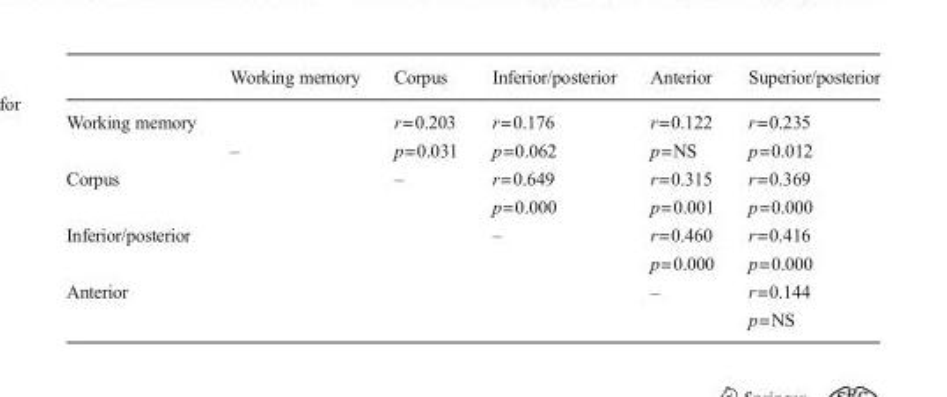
<table><thead><tr><td></td><td>Working memory</td><td>Corpus</td><td>Inferior/posterior</td><td>Anterior</td><td>Superior/posterior</td></tr></thead><tbody><tr><td rowspan="2">Working memory</td><td></td><td>r=0.203</td><td>r=0.176</td><td>r=0.122</td><td>r=0.235</td></tr><tr><td>–</td><td>p=0.031</td><td>p=0.062</td><td>p=NS</td><td>p=0.012</td></tr><tr><td rowspan="2">Corpus</td><td></td><td>–</td><td>r=0.649</td><td>r=0.315</td><td>r=0.369</td></tr><tr><td></td><td></td><td>p=0.000</td><td>p=0.001</td><td>p=0.000</td></tr><tr><td rowspan="2">Inferior/posterior</td><td></td><td></td><td>–</td><td>r=0.460</td><td>r=0.416</td></tr><tr><td></td><td></td><td></td><td>p=0.000</td><td>p=0.000</td></tr><tr><td rowspan="2">Anterior</td><td></td><td></td><td></td><td>–</td><td>r=0.144</td></tr><tr><td></td><td></td><td></td><td></td><td>p=NS</td></tr></tbody></table>